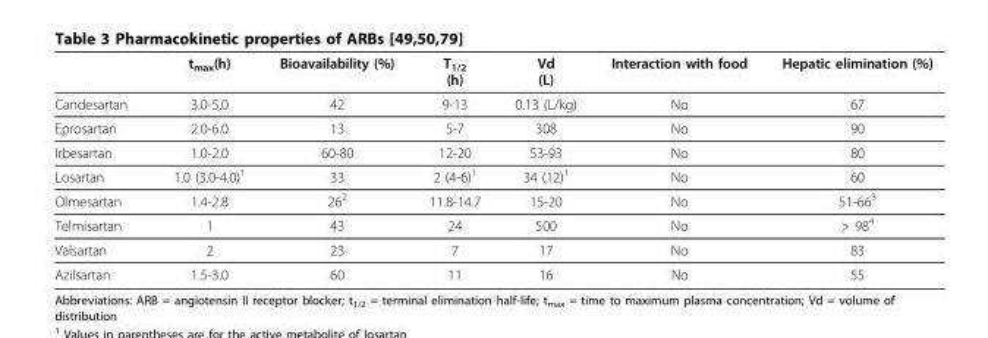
<table><thead><tr><td></td><td>t<sub>max</sub>(h)</td><td>Bioavailability (%)</td><td>T<sub>1/2</sub> (h)</td><td>Vd (L)</td><td>Interaction with food</td><td>Hepatic elimination (%)</td></tr></thead><tbody><tr><td>Candesartan</td><td>3.0-5.0</td><td>42</td><td>9-13</td><td>0.13 (L/kg)</td><td>No</td><td>67</td></tr><tr><td>Eprosartan</td><td>2.0-6.0</td><td>13</td><td>5-7</td><td>308</td><td>No</td><td>90</td></tr><tr><td>Irbesartan</td><td>1.0-2.0</td><td>60-80</td><td>12-20</td><td>53-93</td><td>No</td><td>80</td></tr><tr><td>Losartan</td><td>1.0 (3.0-4.0)<sup>1</sup></td><td>33</td><td>2 (4-6)<sup>1</sup></td><td>34 (12)<sup>1</sup></td><td>No</td><td>60</td></tr><tr><td>Olmesartan</td><td>1.4-2.8</td><td>26<sup>2</sup></td><td>11.8-14.7</td><td>15-20</td><td>No</td><td>51-66<sup>3</sup></td></tr><tr><td>Telmisartan</td><td>1</td><td>43</td><td>24</td><td>500</td><td>No</td><td>&gt; 98<sup>4</sup></td></tr><tr><td>Valsartan</td><td>2</td><td>23</td><td>7</td><td>17</td><td>No</td><td>83</td></tr><tr><td>Azilsartan</td><td>1.5-3.0</td><td>60</td><td>11</td><td>16</td><td>No</td><td>55</td></tr></tbody></table>